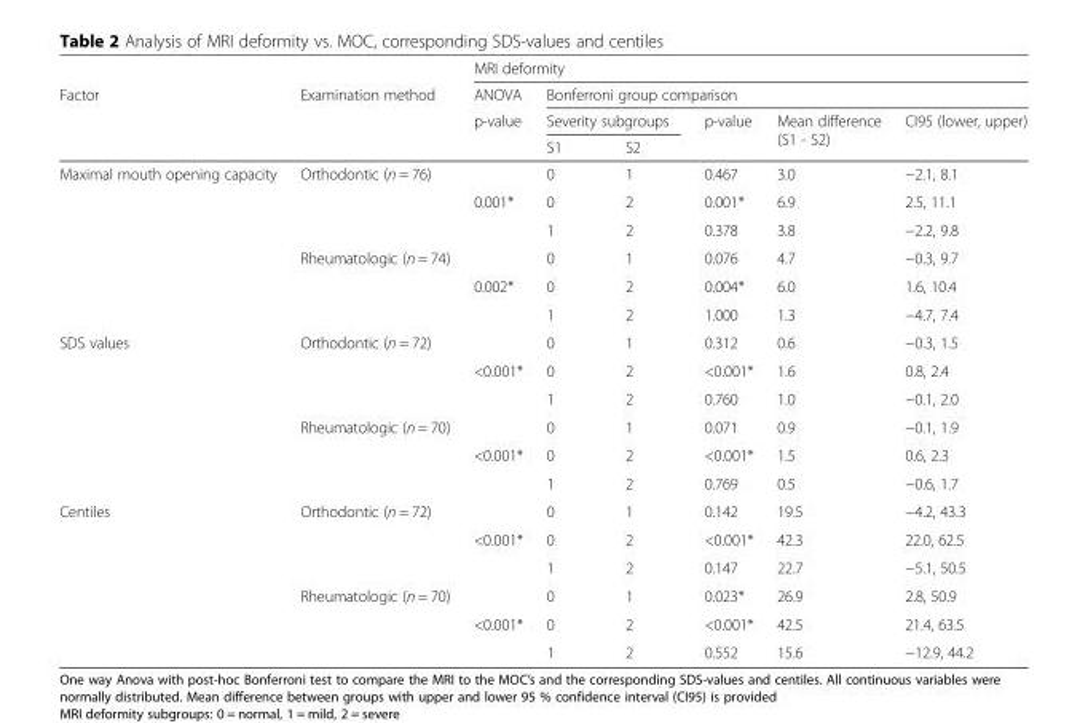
<table><thead><tr><td rowspan="4">Factor</td><td rowspan="4">Examination method</td><td colspan="6">MRI deformity</td></tr><tr><td rowspan="3">ANOVA p-value</td><td colspan="5">Bonferroni group comparison</td></tr><tr><td colspan="2">Severity subgroups</td><td rowspan="2">p-value</td><td rowspan="2">Mean difference (S1 - S2)</td><td rowspan="2">CI95 (lower, upper)</td></tr><tr><td>S1</td><td>S2</td></tr></thead><tbody><tr><td rowspan="6">Maximal mouth opening capacity</td><td rowspan="3">Orthodontic (n = 76)</td><td></td><td>0</td><td>1</td><td>0.467</td><td>3.0</td><td>−2.1, 8.1</td></tr><tr><td>0.001*</td><td>0</td><td>2</td><td>0.001*</td><td>6.9</td><td>2.5, 11.1</td></tr><tr><td></td><td>1</td><td>2</td><td>0.378</td><td>3.8</td><td>−2.2, 9.8</td></tr><tr><td rowspan="3">Rheumatologic (n = 74)</td><td></td><td>0</td><td>1</td><td>0.076</td><td>4.7</td><td>−0.3, 9.7</td></tr><tr><td>0.002*</td><td>0</td><td>2</td><td>0.004*</td><td>6.0</td><td>1.6, 10.4</td></tr><tr><td></td><td>1</td><td>2</td><td>1.000</td><td>1.3</td><td>−4.7, 7.4</td></tr><tr><td rowspan="6">SDS values</td><td rowspan="3">Orthodontic (n = 72)</td><td></td><td>0</td><td>1</td><td>0.312</td><td>0.6</td><td>−0.3, 1.5</td></tr><tr><td>&lt;0.001*</td><td>0</td><td>2</td><td>&lt;0.001*</td><td>1.6</td><td>0.8, 2.4</td></tr><tr><td></td><td>1</td><td>2</td><td>0.760</td><td>1.0</td><td>−0.1, 2.0</td></tr><tr><td rowspan="3">Rheumatologic (n = 70)</td><td></td><td>0</td><td>1</td><td>0.071</td><td>0.9</td><td>−0.1, 1.9</td></tr><tr><td>&lt;0.001*</td><td>0</td><td>2</td><td>&lt;0.001*</td><td>1.5</td><td>0.6, 2.3</td></tr><tr><td></td><td>1</td><td>2</td><td>0.769</td><td>0.5</td><td>−0.6, 1.7</td></tr><tr><td rowspan="6">Centiles</td><td rowspan="3">Orthodontic (n = 72)</td><td></td><td>0</td><td>1</td><td>0.142</td><td>19.5</td><td>−4.2, 43.3</td></tr><tr><td>&lt;0.001*</td><td>0</td><td>2</td><td>&lt;0.001*</td><td>42.3</td><td>22.0, 62.5</td></tr><tr><td></td><td>1</td><td>2</td><td>0.147</td><td>22.7</td><td>−5.1, 50.5</td></tr><tr><td rowspan="3">Rheumatologic (n = 70)</td><td></td><td>0</td><td>1</td><td>0.023*</td><td>26.9</td><td>2.8, 50.9</td></tr><tr><td>&lt;0.001*</td><td>0</td><td>2</td><td>&lt;0.001*</td><td>42.5</td><td>21.4, 63.5</td></tr><tr><td></td><td>1</td><td>2</td><td>0.552</td><td>15.6</td><td>−12.9, 44.2</td></tr></tbody></table>